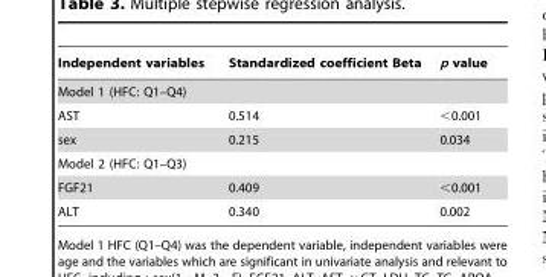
<table><thead><tr><td>Independent variables</td><td>Standardized coefficient Beta</td><td>p value</td></tr></thead><tbody><tr><td colspan="3">Model 1 (HFC: Q1–Q4)</td></tr><tr><td>AST</td><td>0.514</td><td>&lt;0.001</td></tr><tr><td>sex</td><td>0.215</td><td>0.034</td></tr><tr><td colspan="3">Model 2 (HFC: Q1–Q3)</td></tr><tr><td>FGF21</td><td>0.409</td><td>&lt;0.001</td></tr><tr><td>ALT</td><td>0.340</td><td>0.002</td></tr></tbody></table>